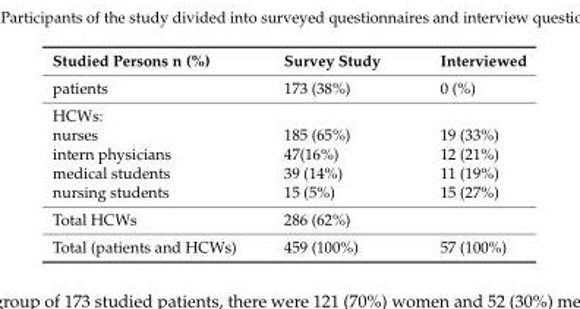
<table><thead><tr><td>Studied Persons n (%)</td><td>Survey Study</td><td>Interviewed</td></tr></thead><tbody><tr><td>patients</td><td>173 (38%)</td><td>0 (%)</td></tr><tr><td colspan="3">HCWs:</td></tr><tr><td>nurses</td><td>185 (65%)</td><td>19 (33%)</td></tr><tr><td>intern physicians</td><td>47(16%)</td><td>12 (21%)</td></tr><tr><td>medical students</td><td>39 (14%)</td><td>11 (19%)</td></tr><tr><td>nursing students</td><td>15 (5%)</td><td>15 (27%)</td></tr><tr><td>Total HCWs</td><td colspan="2">286 (62%)</td></tr><tr><td>Total (patients and HCWs)</td><td>459 (100%)</td><td>57 (100%)</td></tr></tbody></table>